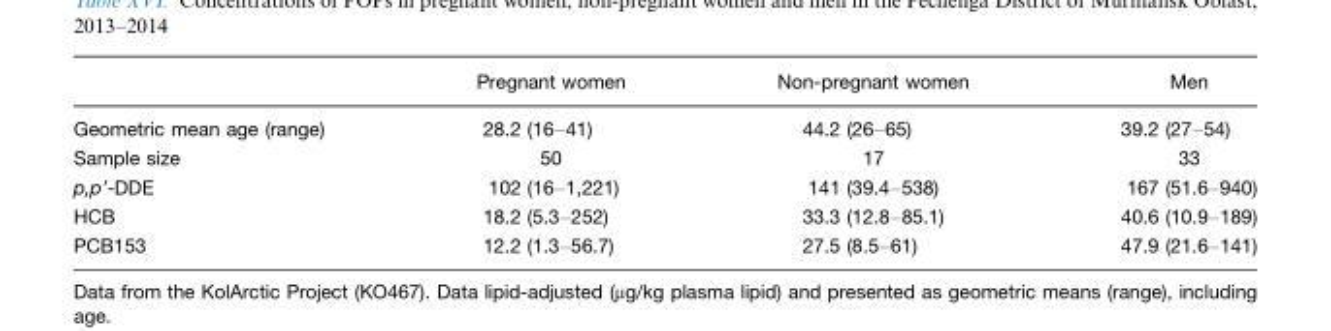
<table><thead><tr><td></td><td>Pregnant women</td><td>Non-pregnant women</td><td>Men</td></tr></thead><tbody><tr><td>Geometric mean age (range)</td><td>28.2 (16–41)</td><td>44.2 (26–65)</td><td>39.2 (27–54)</td></tr><tr><td>Sample size</td><td>50</td><td>17</td><td>33</td></tr><tr><td>p,p’-DDE</td><td>102 (16–1,221)</td><td>141 (39.4–538)</td><td>167 (51.6–940)</td></tr><tr><td>HCB</td><td>18.2 (5.3–252)</td><td>33.3 (12.8–85.1)</td><td>40.6 (10.9–189)</td></tr><tr><td>PCB153</td><td>12.2 (1.3–56.7)</td><td>27.5 (8.5–61)</td><td>47.9 (21.6–141)</td></tr></tbody></table>